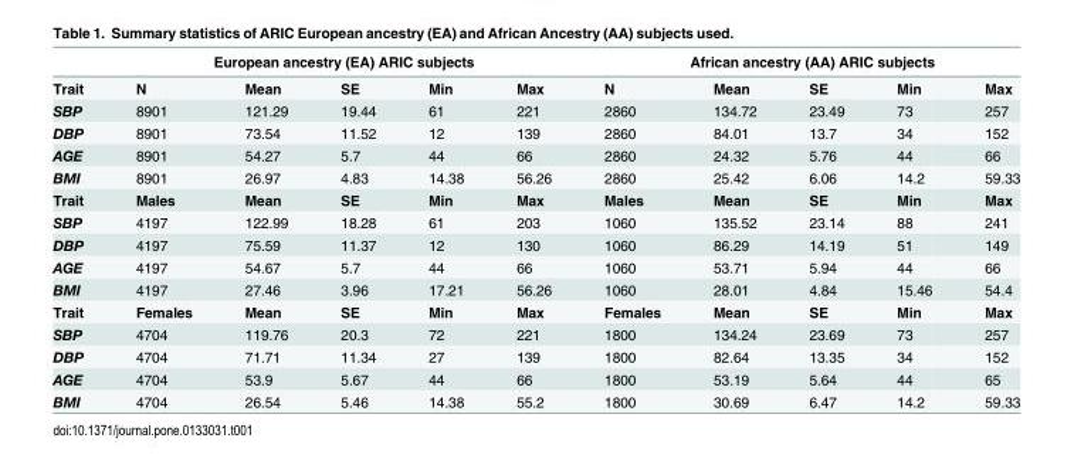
<table><thead><tr><td rowspan="2">Trait</td><td colspan="5">European ancestry (EA) ARIC subjects</td><td colspan="5">African ancestry (AA) ARIC subjects</td></tr><tr><td>N</td><td>Mean</td><td>SE</td><td>Min</td><td>Max</td><td>N</td><td>Mean</td><td>SE</td><td>Min</td><td>Max</td></tr></thead><tbody><tr><td>SBP</td><td>8901</td><td>121.29</td><td>19.44</td><td>61</td><td>221</td><td>2860</td><td>134.72</td><td>23.49</td><td>73</td><td>257</td></tr><tr><td>DBP</td><td>8901</td><td>73.54</td><td>11.52</td><td>12</td><td>139</td><td>2860</td><td>84.01</td><td>13.7</td><td>34</td><td>152</td></tr><tr><td>AGE</td><td>8901</td><td>54.27</td><td>5.7</td><td>44</td><td>66</td><td>2860</td><td>24.32</td><td>5.76</td><td>44</td><td>66</td></tr><tr><td>BMI</td><td>8901</td><td>26.97</td><td>4.83</td><td>14.38</td><td>56.26</td><td>2860</td><td>25.42</td><td>6.06</td><td>14.2</td><td>59.33</td></tr><tr><td>Trait</td><td>Males</td><td>Mean</td><td>SE</td><td>Min</td><td>Max</td><td>Males</td><td>Mean</td><td>SE</td><td>Min</td><td>Max</td></tr><tr><td>SBP</td><td>4197</td><td>122.99</td><td>18.28</td><td>61</td><td>203</td><td>1060</td><td>135.52</td><td>23.14</td><td>88</td><td>241</td></tr><tr><td>DBP</td><td>4197</td><td>75.59</td><td>11.37</td><td>12</td><td>130</td><td>1060</td><td>86.29</td><td>14.19</td><td>51</td><td>149</td></tr><tr><td>AGE</td><td>4197</td><td>54.67</td><td>5.7</td><td>44</td><td>66</td><td>1060</td><td>53.71</td><td>5.94</td><td>44</td><td>66</td></tr><tr><td>BMI</td><td>4197</td><td>27.46</td><td>3.96</td><td>17.21</td><td>56.26</td><td>1060</td><td>28.01</td><td>4.84</td><td>15.46</td><td>54.4</td></tr><tr><td>Trait</td><td>Females</td><td>Mean</td><td>SE</td><td>Min</td><td>Max</td><td>Females</td><td>Mean</td><td>SE</td><td>Min</td><td>Max</td></tr><tr><td>SBP</td><td>4704</td><td>119.76</td><td>20.3</td><td>72</td><td>221</td><td>1800</td><td>134.24</td><td>23.69</td><td>73</td><td>257</td></tr><tr><td>DBP</td><td>4704</td><td>71.71</td><td>11.34</td><td>27</td><td>139</td><td>1800</td><td>82.64</td><td>13.35</td><td>34</td><td>152</td></tr><tr><td>AGE</td><td>4704</td><td>53.9</td><td>5.67</td><td>44</td><td>66</td><td>1800</td><td>53.19</td><td>5.64</td><td>44</td><td>65</td></tr><tr><td>BMI</td><td>4704</td><td>26.54</td><td>5.46</td><td>14.38</td><td>55.2</td><td>1800</td><td>30.69</td><td>6.47</td><td>14.2</td><td>59.33</td></tr></tbody></table>